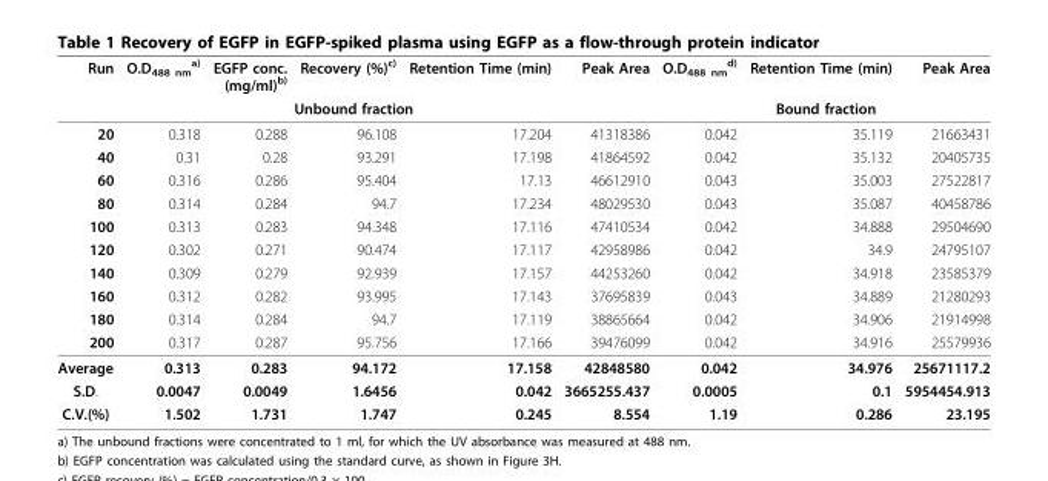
<table><tbody><tr><td>Run</td><td>O.D<sub>488 nm</sub> <sup>a)</sup></td><td>EGFP conc. (mg/ml)<sup>b)</sup></td><td>Recovery (%)<sup>c)</sup></td><td>Retention Time (min)</td><td>Peak Area</td><td>O.D<sub>488 nm</sub> <sup>d)</sup></td><td>Retention Time (min)</td><td>Peak Area</td></tr><tr><td colspan="6">Unbound fraction</td><td colspan="3">Bound fraction</td></tr><tr><td>20</td><td>0.318</td><td>0.288</td><td>96.108</td><td>17.204</td><td>41318386</td><td>0.042</td><td>35.119</td><td>21663431</td></tr><tr><td>40</td><td>0.31</td><td>0.28</td><td>93.291</td><td>17.198</td><td>41864592</td><td>0.042</td><td>35.132</td><td>20405735</td></tr><tr><td>60</td><td>0.316</td><td>0.286</td><td>95.404</td><td>17.13</td><td>46612910</td><td>0.043</td><td>35.003</td><td>27522817</td></tr><tr><td>80</td><td>0.314</td><td>0.284</td><td>94.7</td><td>17.234</td><td>48029530</td><td>0.043</td><td>35.087</td><td>40458786</td></tr><tr><td>100</td><td>0.313</td><td>0.283</td><td>94.348</td><td>17.116</td><td>47410534</td><td>0.042</td><td>34.888</td><td>29504690</td></tr><tr><td>120</td><td>0.302</td><td>0.271</td><td>90.474</td><td>17.117</td><td>42958986</td><td>0.042</td><td>34.9</td><td>24795107</td></tr><tr><td>140</td><td>0.309</td><td>0.279</td><td>92.939</td><td>17.157</td><td>44253260</td><td>0.042</td><td>34.918</td><td>23585379</td></tr><tr><td>160</td><td>0.312</td><td>0.282</td><td>93.995</td><td>17.143</td><td>37695839</td><td>0.043</td><td>34.889</td><td>21280293</td></tr><tr><td>180</td><td>0.314</td><td>0.284</td><td>94.7</td><td>17.119</td><td>38865664</td><td>0.042</td><td>34.906</td><td>21914998</td></tr><tr><td>200</td><td>0.317</td><td>0.287</td><td>95.756</td><td>17.166</td><td>39476099</td><td>0.042</td><td>34.916</td><td>25579936</td></tr><tr><td>Average</td><td>0.313</td><td>0.283</td><td>94.172</td><td>17.158</td><td>42848580</td><td>0.042</td><td>34.976</td><td>25671117.2</td></tr><tr><td>S.D.</td><td>0.0047</td><td>0.0049</td><td>1.6456</td><td>0.042</td><td>3665255.437</td><td>0.0005</td><td>0.1</td><td>5954454.913</td></tr><tr><td>C.V.(%)</td><td>1.502</td><td>1.731</td><td>1.747</td><td>0.245</td><td>8.554</td><td>1.19</td><td>0.286</td><td>23.195</td></tr></tbody></table>